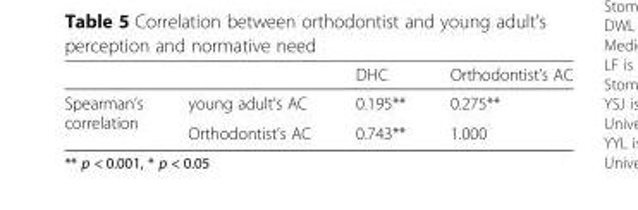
<table><thead><tr><td></td><td></td><td>DHC</td><td>Orthodontist’s AC</td></tr></thead><tbody><tr><td rowspan="2">Spearman’s correlation</td><td>young adult’s AC</td><td>0.195**</td><td>0.275**</td></tr><tr><td>Orthodontist’s AC</td><td>0.743**</td><td>1.000</td></tr></tbody></table>